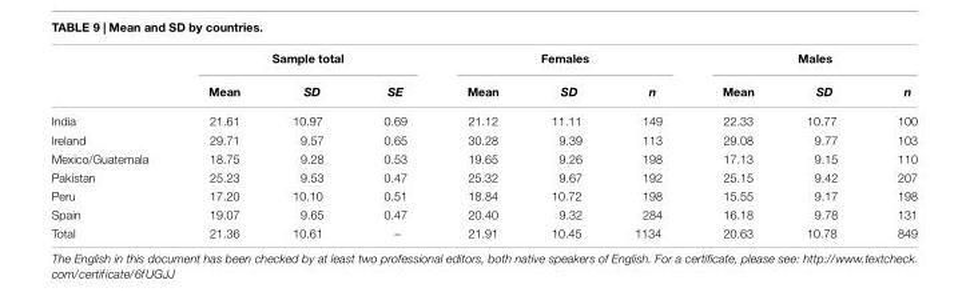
<table><thead><tr><td rowspan="2"></td><td colspan="3">Sample total</td><td colspan="3">Females</td><td colspan="3">Males</td></tr><tr><td>Mean</td><td>SD</td><td>SE</td><td>Mean</td><td>SD</td><td>n</td><td>Mean</td><td>SD</td><td>n</td></tr></thead><tbody><tr><td>India</td><td>21.61</td><td>10.97</td><td>0.69</td><td>21.12</td><td>11.11</td><td>149</td><td>22.33</td><td>10.77</td><td>100</td></tr><tr><td>Ireland</td><td>29.71</td><td>9.57</td><td>0.65</td><td>30.28</td><td>9.39</td><td>113</td><td>29.08</td><td>9.77</td><td>103</td></tr><tr><td>Mexico/Guatemala</td><td>18.75</td><td>9.28</td><td>0.53</td><td>19.65</td><td>9.26</td><td>198</td><td>17.13</td><td>9.15</td><td>110</td></tr><tr><td>Pakistan</td><td>25.23</td><td>9.53</td><td>0.47</td><td>25.32</td><td>9.67</td><td>192</td><td>25.15</td><td>9.42</td><td>207</td></tr><tr><td>Peru</td><td>17.20</td><td>10.10</td><td>0.51</td><td>18.84</td><td>10.72</td><td>198</td><td>15.55</td><td>9.17</td><td>198</td></tr><tr><td>Spain</td><td>19.07</td><td>9.65</td><td>0.47</td><td>20.40</td><td>9.32</td><td>284</td><td>16.18</td><td>9.78</td><td>131</td></tr><tr><td>Total</td><td>21.36</td><td>10.61</td><td>–</td><td>21.91</td><td>10.45</td><td>1134</td><td>20.63</td><td>10.78</td><td>849</td></tr></tbody></table>